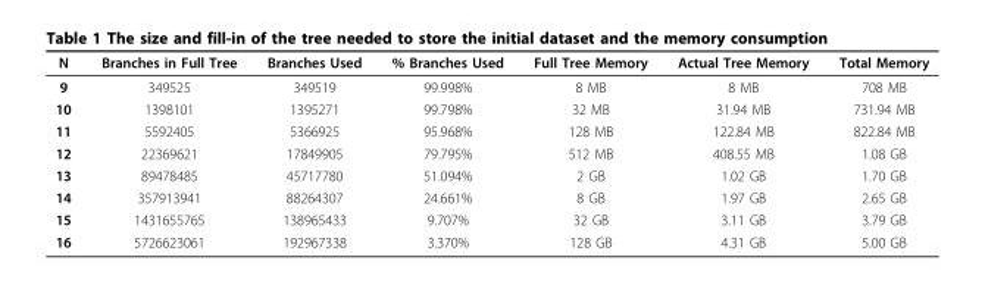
<table><thead><tr><td>N</td><td>Branches in Full Tree</td><td>Branches Used</td><td>% Branches Used</td><td>Full Tree Memory</td><td>Actual Tree Memory</td><td>Total Memory</td></tr></thead><tbody><tr><td>9</td><td>349525</td><td>349519</td><td>99.998%</td><td>8 MB</td><td>8 MB</td><td>708 MB</td></tr><tr><td>10</td><td>1398101</td><td>1395271</td><td>99.798%</td><td>32 MB</td><td>31.94 MB</td><td>731.94 MB</td></tr><tr><td>11</td><td>5592405</td><td>5366925</td><td>95.968%</td><td>128 MB</td><td>122.84 MB</td><td>822.84 MB</td></tr><tr><td>12</td><td>22369621</td><td>17849905</td><td>79.795%</td><td>512 MB</td><td>408.55 MB</td><td>1.08 GB</td></tr><tr><td>13</td><td>89478485</td><td>45717780</td><td>51.094%</td><td>2 GB</td><td>1.02 GB</td><td>1.70 GB</td></tr><tr><td>14</td><td>357913941</td><td>88264307</td><td>24.661%</td><td>8 GB</td><td>1.97 GB</td><td>2.65 GB</td></tr><tr><td>15</td><td>1431655765</td><td>138965433</td><td>9.707%</td><td>32 GB</td><td>3.11 GB</td><td>3.79 GB</td></tr><tr><td>16</td><td>5726623061</td><td>192967338</td><td>3.370%</td><td>128 GB</td><td>4.31 GB</td><td>5.00 GB</td></tr></tbody></table>